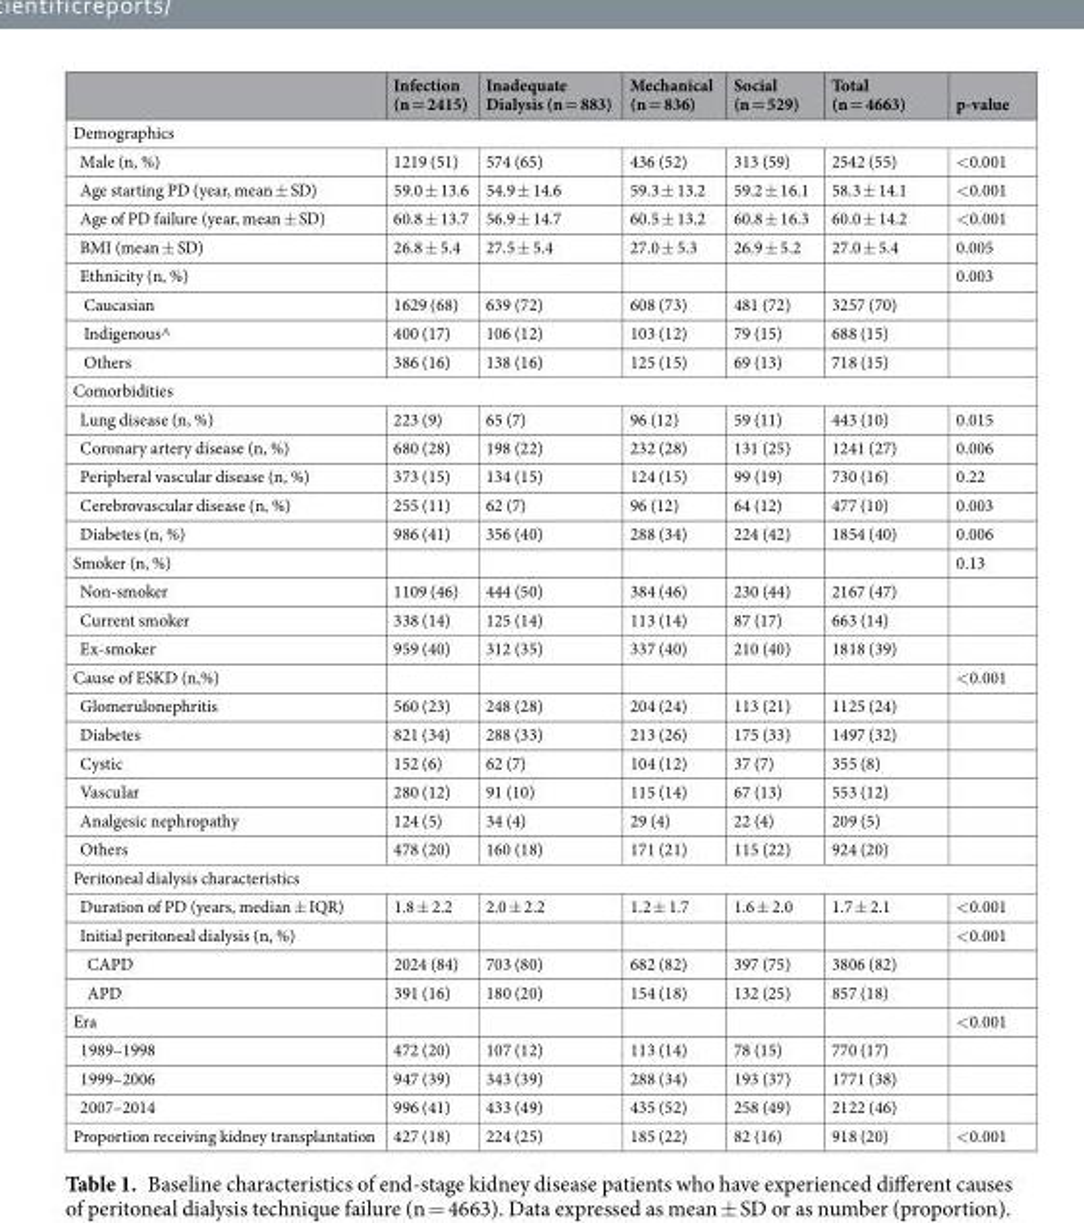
<table><thead><tr><td></td><td>Infection (n = 2415)</td><td>Inadequate Dialysis (n = 883)</td><td>Mechanical (n = 836)</td><td>Social (n = 529)</td><td>Total (n = 4663)</td><td>p-value</td></tr></thead><tbody><tr><td colspan="7">Demographics</td></tr><tr><td>Male (n, %)</td><td>1219 (51)</td><td>574 (65)</td><td>436 (52)</td><td>313 (59)</td><td>2542 (55)</td><td>&lt;0.001</td></tr><tr><td>Age starting PD (year, mean ± SD)</td><td>59.0 ± 13.6</td><td>54.9 ± 14.6</td><td>59.3 ± 13.2</td><td>59.2 ± 16.1</td><td>58.3 ± 14.1</td><td>&lt;0.001</td></tr><tr><td>Age of PD failure (year, mean ± SD)</td><td>60.8 ± 13.7</td><td>56.9 ± 14.7</td><td>60.5 ± 13.2</td><td>60.8 ± 16.3</td><td>60.0 ± 14.2</td><td>&lt;0.001</td></tr><tr><td>BMI (mean ± SD)</td><td>26.8 ± 5.4</td><td>27.5 ± 5.4</td><td>27.0 ± 5.3</td><td>26.9 ± 5.2</td><td>27.0 ± 5.4</td><td>0.005</td></tr><tr><td>Ethnicity (n, %)</td><td></td><td></td><td></td><td></td><td></td><td>0.003</td></tr><tr><td>Caucasian</td><td>1629 (68)</td><td>639 (72)</td><td>608 (73)</td><td>481 (72)</td><td>3257 (70)</td><td></td></tr><tr><td>Indigenous^</td><td>400 (17)</td><td>106 (12)</td><td>103 (12)</td><td>79 (15)</td><td>688 (15)</td><td></td></tr><tr><td>Others</td><td>386 (16)</td><td>138 (16)</td><td>125 (15)</td><td>69 (13)</td><td>718 (15)</td><td></td></tr><tr><td colspan="7">Comorbidities</td></tr><tr><td>Lung disease (n, %)</td><td>223 (9)</td><td>65 (7)</td><td>96 (12)</td><td>59 (11)</td><td>443 (10)</td><td>0.015</td></tr><tr><td>Coronary artery disease (n, %)</td><td>680 (28)</td><td>198 (22)</td><td>232 (28)</td><td>131 (25)</td><td>1241 (27)</td><td>0.006</td></tr><tr><td>Peripheral vascular disease (n, %)</td><td>373 (15)</td><td>134 (15)</td><td>124 (15)</td><td>99 (19)</td><td>730 (16)</td><td>0.22</td></tr><tr><td>Cerebrovascular disease (n, %)</td><td>255 (11)</td><td>62 (7)</td><td>96 (12)</td><td>64 (12)</td><td>477 (10)</td><td>0.003</td></tr><tr><td>Diabetes (n, %)</td><td>986 (41)</td><td>356 (40)</td><td>288 (34)</td><td>224 (42)</td><td>1854 (40)</td><td>0.006</td></tr><tr><td>Smoker (n, %)</td><td></td><td></td><td></td><td></td><td></td><td>0.13</td></tr><tr><td>Non-smoker</td><td>1109 (46)</td><td>444 (50)</td><td>384 (46)</td><td>230 (44)</td><td>2167 (47)</td><td></td></tr><tr><td>Current smoker</td><td>338 (14)</td><td>125 (14)</td><td>113 (14)</td><td>87 (17)</td><td>663 (14)</td><td></td></tr><tr><td>Ex-smoker</td><td>959 (40)</td><td>312 (35)</td><td>337 (40)</td><td>210 (40)</td><td>1818 (39)</td><td></td></tr><tr><td>Cause of ESKD (n,%)</td><td></td><td></td><td></td><td></td><td></td><td>&lt;0.001</td></tr><tr><td>Glomerulonephritis</td><td>560 (23)</td><td>248 (28)</td><td>204 (24)</td><td>113 (21)</td><td>1125 (24)</td><td></td></tr><tr><td>Diabetes</td><td>821 (34)</td><td>288 (33)</td><td>213 (26)</td><td>175 (33)</td><td>1497 (32)</td><td></td></tr><tr><td>Cystic</td><td>152 (6)</td><td>62 (7)</td><td>104 (12)</td><td>37 (7)</td><td>355 (8)</td><td></td></tr><tr><td>Vascular</td><td>280 (12)</td><td>91 (10)</td><td>115 (14)</td><td>67 (13)</td><td>553 (12)</td><td></td></tr><tr><td>Analgesic nephropathy</td><td>124 (5)</td><td>34 (4)</td><td>29 (4)</td><td>22 (4)</td><td>209 (5)</td><td></td></tr><tr><td>Others</td><td>478 (20)</td><td>160 (18)</td><td>171 (21)</td><td>115 (22)</td><td>924 (20)</td><td></td></tr><tr><td colspan="7">Peritoneal dialysis characteristics</td></tr><tr><td>Duration of PD (years, median ± IQR)</td><td>1.8 ± 2.2</td><td>2.0 ± 2.2</td><td>1.2 ± 1.7</td><td>1.6 ± 2.0</td><td>1.7 ± 2.1</td><td>&lt;0.001</td></tr><tr><td>Initial peritoneal dialysis (n, %)</td><td></td><td></td><td></td><td></td><td></td><td>&lt;0.001</td></tr><tr><td>CAPD</td><td>2024 (84)</td><td>703 (80)</td><td>682 (82)</td><td>397 (75)</td><td>3806 (82)</td><td></td></tr><tr><td>APD</td><td>391 (16)</td><td>180 (20)</td><td>154 (18)</td><td>132 (25)</td><td>857 (18)</td><td></td></tr><tr><td>Era</td><td></td><td></td><td></td><td></td><td></td><td>&lt;0.001</td></tr><tr><td>1989–1998</td><td>472 (20)</td><td>107 (12)</td><td>113 (14)</td><td>78 (15)</td><td>770 (17)</td><td></td></tr><tr><td>1999–2006</td><td>947 (39)</td><td>343 (39)</td><td>288 (34)</td><td>193 (37)</td><td>1771 (38)</td><td></td></tr><tr><td>2007–2014</td><td>996 (41)</td><td>433 (49)</td><td>435 (52)</td><td>258 (49)</td><td>2122 (46)</td><td></td></tr><tr><td>Proportion receiving kidney transplantation</td><td>427 (18)</td><td>224 (25)</td><td>185 (22)</td><td>82 (16)</td><td>918 (20)</td><td>&lt;0.001</td></tr></tbody></table>